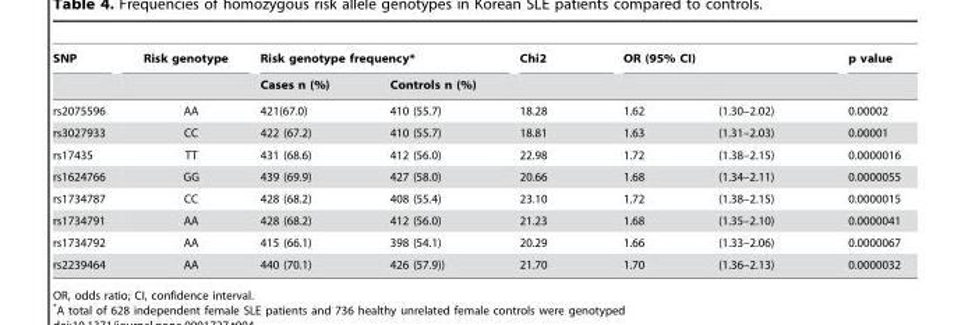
<table><thead><tr><td rowspan="2">SNP</td><td rowspan="2">Risk genotype</td><td colspan="2">Risk genotype frequency*</td><td rowspan="2">Chi2</td><td colspan="2">OR (95% CI)</td><td rowspan="2">p value</td></tr><tr><td>Cases n (%)</td><td>Controls n (%)</td><td></td><td></td></tr></thead><tbody><tr><td>rs2075596</td><td>AA</td><td>421(67.0)</td><td>410 (55.7)</td><td>18.28</td><td>1.62</td><td>(1.30–2.02)</td><td>0.00002</td></tr><tr><td>rs3027933</td><td>CC</td><td>422 (67.2)</td><td>410 (55.7)</td><td>18.81</td><td>1.63</td><td>(1.31–2.03)</td><td>0.00001</td></tr><tr><td>rs17435</td><td>TT</td><td>431 (68.6)</td><td>412 (56.0)</td><td>22.98</td><td>1.72</td><td>(1.38–2.15)</td><td>0.0000016</td></tr><tr><td>rs1624766</td><td>GG</td><td>439 (69.9)</td><td>427 (58.0)</td><td>20.66</td><td>1.68</td><td>(1.34–2.11)</td><td>0.0000055</td></tr><tr><td>rs1734787</td><td>CC</td><td>428 (68.2)</td><td>408 (55.4)</td><td>23.10</td><td>1.72</td><td>(1.38–2.15)</td><td>0.0000015</td></tr><tr><td>rs1734791</td><td>AA</td><td>428 (68.2)</td><td>412 (56.0)</td><td>21.23</td><td>1.68</td><td>(1.35–2.10)</td><td>0.0000041</td></tr><tr><td>rs1734792</td><td>AA</td><td>415 (66.1)</td><td>398 (54.1)</td><td>20.29</td><td>1.66</td><td>(1.33–2.06)</td><td>0.0000067</td></tr><tr><td>rs2239464</td><td>AA</td><td>440 (70.1)</td><td>426 (57.9))</td><td>21.70</td><td>1.70</td><td>(1.36–2.13)</td><td>0.0000032</td></tr></tbody></table>